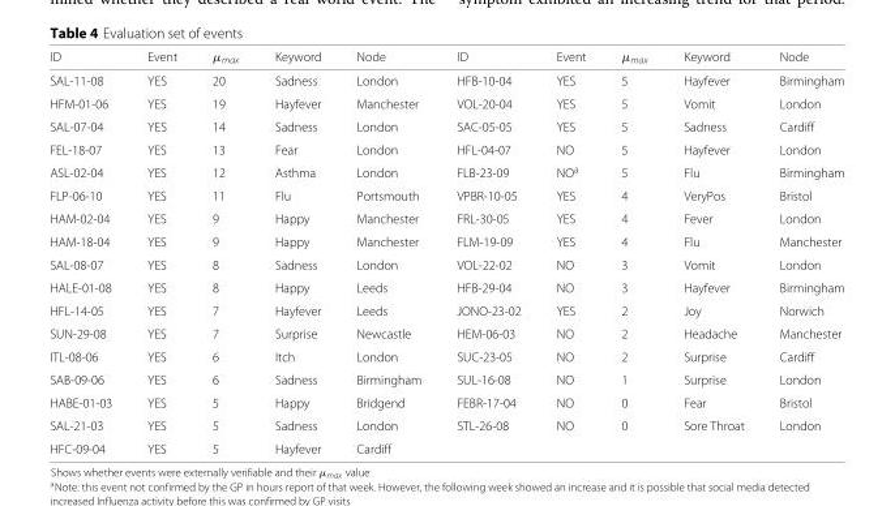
<table><thead><tr><td>ID</td><td>Event</td><td>μ<sub>max</sub></td><td>Keyword</td><td>Node</td><td>ID</td><td>Event</td><td>μ<sub>max</sub></td><td>Keyword</td><td>Node</td></tr></thead><tbody><tr><td>SAL-11-08</td><td>YES</td><td>20</td><td>Sadness</td><td>London</td><td>HFB-10-04</td><td>YES</td><td>5</td><td>Hayfever</td><td>Birmingham</td></tr><tr><td>HFM-01-06</td><td>YES</td><td>19</td><td>Hayfever</td><td>Manchester</td><td>VOL-20-04</td><td>YES</td><td>5</td><td>Vomit</td><td>London</td></tr><tr><td>SAL-07-04</td><td>YES</td><td>14</td><td>Sadness</td><td>London</td><td>SAC-05-05</td><td>YES</td><td>5</td><td>Sadness</td><td>Cardiff</td></tr><tr><td>FEL-18-07</td><td>YES</td><td>13</td><td>Fear</td><td>London</td><td>HFL-04-07</td><td>NO</td><td>5</td><td>Hayfever</td><td>London</td></tr><tr><td>ASL-02-04</td><td>YES</td><td>12</td><td>Asthma</td><td>London</td><td>FLB-23-09</td><td>NO<sup>a</sup></td><td>5</td><td>Flu</td><td>Birmingham</td></tr><tr><td>FLP-06-10</td><td>YES</td><td>11</td><td>Flu</td><td>Portsmouth</td><td>VPBR-10-05</td><td>YES</td><td>4</td><td>VeryPos</td><td>Bristol</td></tr><tr><td>HAM-02-04</td><td>YES</td><td>9</td><td>Happy</td><td>Manchester</td><td>FRL-30-05</td><td>YES</td><td>4</td><td>Fever</td><td>London</td></tr><tr><td>HAM-18-04</td><td>YES</td><td>9</td><td>Happy</td><td>Manchester</td><td>FLM-19-09</td><td>YES</td><td>4</td><td>Flu</td><td>Manchester</td></tr><tr><td>SAL-08-07</td><td>YES</td><td>8</td><td>Sadness</td><td>London</td><td>VOL-22-02</td><td>NO</td><td>3</td><td>Vomit</td><td>London</td></tr><tr><td>HALE-01-08</td><td>YES</td><td>8</td><td>Happy</td><td>Leeds</td><td>HFB-29-04</td><td>NO</td><td>3</td><td>Hayfever</td><td>Birmingham</td></tr><tr><td>HFL-14-05</td><td>YES</td><td>7</td><td>Hayfever</td><td>Leeds</td><td>JONO-23-02</td><td>YES</td><td>2</td><td>Joy</td><td>Norwich</td></tr><tr><td>SUN-29-08</td><td>YES</td><td>7</td><td>Surprise</td><td>Newcastle</td><td>HEM-06-03</td><td>NO</td><td>2</td><td>Headache</td><td>Manchester</td></tr><tr><td>ITL-08-06</td><td>YES</td><td>6</td><td>Itch</td><td>London</td><td>SUC-23-05</td><td>NO</td><td>2</td><td>Surprise</td><td>Cardiff</td></tr><tr><td>SAB-09-06</td><td>YES</td><td>6</td><td>Sadness</td><td>Birmingham</td><td>SUL-16-08</td><td>NO</td><td>1</td><td>Surprise</td><td>London</td></tr><tr><td>HABE-01-03</td><td>YES</td><td>5</td><td>Happy</td><td>Bridgend</td><td>FEBR-17-04</td><td>NO</td><td>0</td><td>Fear</td><td>Bristol</td></tr><tr><td>SAL-21-03</td><td>YES</td><td>5</td><td>Sadness</td><td>London</td><td>STL-26-08</td><td>NO</td><td>0</td><td>Sore Throat</td><td>London</td></tr><tr><td>HFC-09-04</td><td>YES</td><td>5</td><td>Hayfever</td><td>Cardiff</td><td></td><td></td><td></td><td></td><td></td></tr></tbody></table>